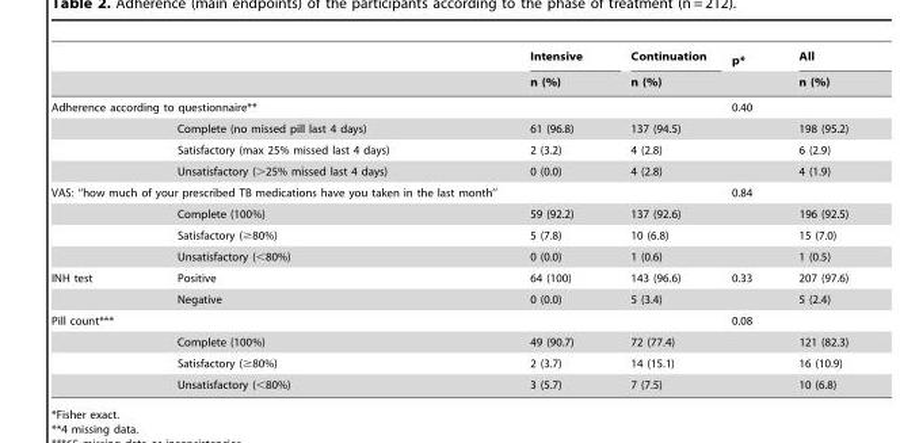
<table><thead><tr><td rowspan="2"></td><td rowspan="2"></td><td rowspan="2">Intensive n (%)</td><td rowspan="2">Continuation n (%)</td><td rowspan="2">p*</td><td rowspan="2">All n (%)</td></tr><tr></tr></thead><tbody><tr><td colspan="2">Adherence according to questionnaire**</td><td></td><td></td><td>0.40</td><td></td></tr><tr><td></td><td>Complete (no missed pill last 4 days)</td><td>61 (96.8)</td><td>137 (94.5)</td><td></td><td>198 (95.2)</td></tr><tr><td></td><td>Satisfactory (max 25% missed last 4 days)</td><td>2 (3.2)</td><td>4 (2.8)</td><td></td><td>6 (2.9)</td></tr><tr><td></td><td>Unsatisfactory (&gt;25% missed last 4 days)</td><td>0 (0.0)</td><td>4 (2.8)</td><td></td><td>4 (1.9)</td></tr><tr><td colspan="2">VAS: ‘‘how much of your prescribed TB medications have you taken in the last month’’</td><td></td><td></td><td>0.84</td><td></td></tr><tr><td></td><td>Complete (100%)</td><td>59 (92.2)</td><td>137 (92.6)</td><td></td><td>196 (92.5)</td></tr><tr><td></td><td>Satisfactory (≥80%)</td><td>5 (7.8)</td><td>10 (6.8)</td><td></td><td>15 (7.0)</td></tr><tr><td></td><td>Unsatisfactory (&lt;80%)</td><td>0 (0.0)</td><td>1 (0.6)</td><td></td><td>1 (0.5)</td></tr><tr><td rowspan="2">INH test</td><td>Positive</td><td>64 (100)</td><td>143 (96.6)</td><td>0.33</td><td>207 (97.6)</td></tr><tr><td>Negative</td><td>0 (0.0)</td><td>5 (3.4)</td><td></td><td>5 (2.4)</td></tr><tr><td colspan="2">Pill count***</td><td></td><td></td><td>0.08</td><td></td></tr><tr><td></td><td>Complete (100%)</td><td>49 (90.7)</td><td>72 (77.4)</td><td></td><td>121 (82.3)</td></tr><tr><td></td><td>Satisfactory (≥80%)</td><td>2 (3.7)</td><td>14 (15.1)</td><td></td><td>16 (10.9)</td></tr><tr><td></td><td>Unsatisfactory (&lt;80%)</td><td>3 (5.7)</td><td>7 (7.5)</td><td></td><td>10 (6.8)</td></tr></tbody></table>